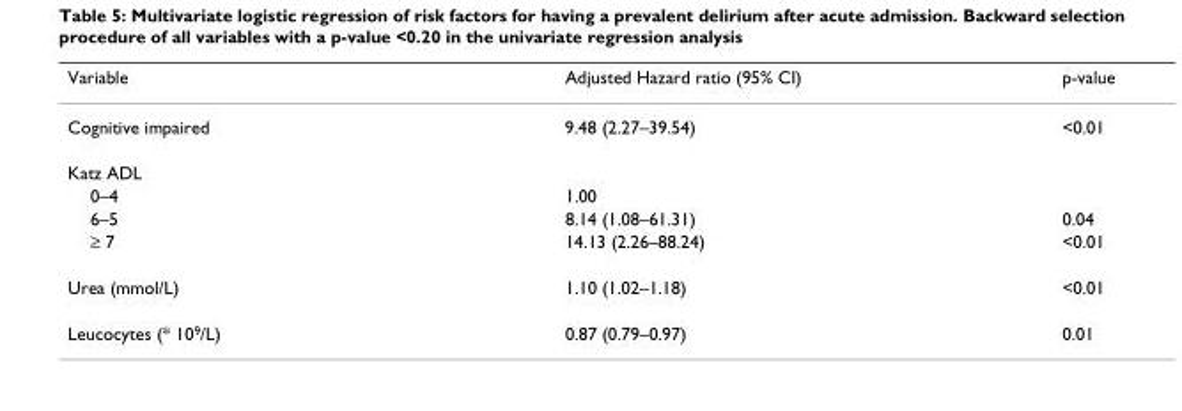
<table><thead><tr><td>Variable</td><td>Adjusted Hazard ratio (95% CI)</td><td>p-value</td></tr></thead><tbody><tr><td>Cognitive impaired</td><td>9.48 (2.27–39.54)</td><td>&lt;0.01</td></tr><tr><td colspan="3">Katz ADL</td></tr><tr><td>0–4</td><td>1.00</td><td></td></tr><tr><td>6–5</td><td>8.14 (1.08–61.31)</td><td>0.04</td></tr><tr><td>≥ 7</td><td>14.13 (2.26–88.24)</td><td>&lt;0.01</td></tr><tr><td>Urea (mmol/L)</td><td>1.10 (1.02–1.18)</td><td>&lt;0.01</td></tr><tr><td>Leucocytes (* 10<sup>9</sup>/L)</td><td>0.87 (0.79–0.97)</td><td>0.01</td></tr></tbody></table>